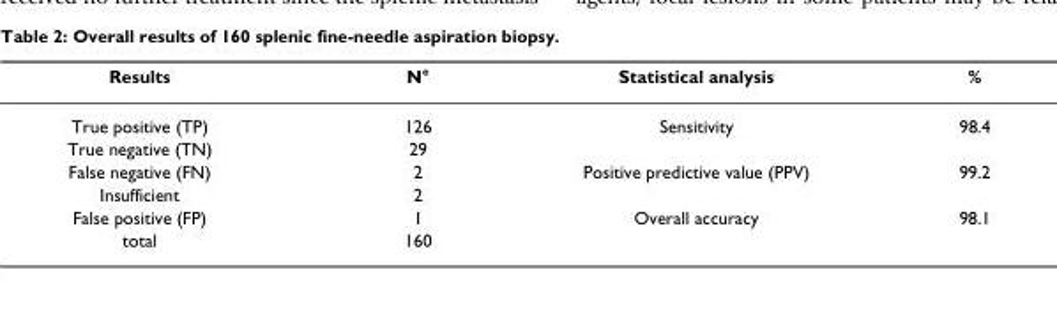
<table><thead><tr><td>Results</td><td>N°</td><td>Statistical analysis</td><td>%</td></tr></thead><tbody><tr><td>True positive (TP)</td><td>126</td><td>Sensitivity</td><td>98.4</td></tr><tr><td>True negative (TN)</td><td>29</td><td></td><td></td></tr><tr><td>False negative (FN)</td><td>2</td><td>Positive predictive value (PPV)</td><td>99.2</td></tr><tr><td>Insufficient</td><td>2</td><td></td><td></td></tr><tr><td>False positive (FP)</td><td>1</td><td>Overall accuracy</td><td>98.1</td></tr><tr><td>total</td><td>160</td><td></td><td></td></tr></tbody></table>